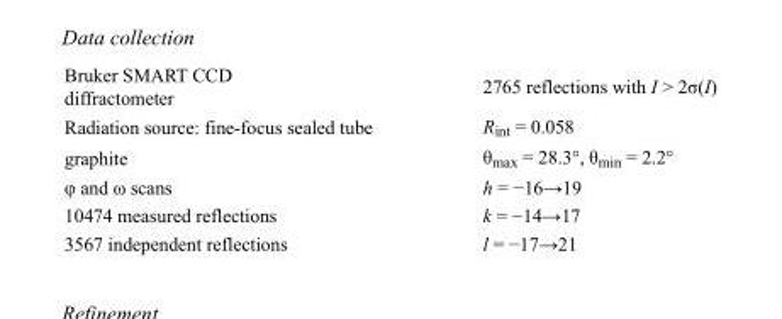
<table><tbody><tr><td>Bruker SMART CCD diffractometer</td><td>2765 reflections with I &gt; 2σ(I)</td></tr><tr><td>Radiation source: fine-focus sealed tube</td><td>R<sub>int</sub> = 0.058</td></tr><tr><td>graphite</td><td>θ<sub>max</sub> = 28.3°, θ<sub>min</sub> = 2.2°</td></tr><tr><td>φ and ω scans</td><td>h = −16→19</td></tr><tr><td>10474 measured reflections</td><td>k = −14→17</td></tr><tr><td>3567 independent reflections</td><td>l = −17→21</td></tr></tbody></table>